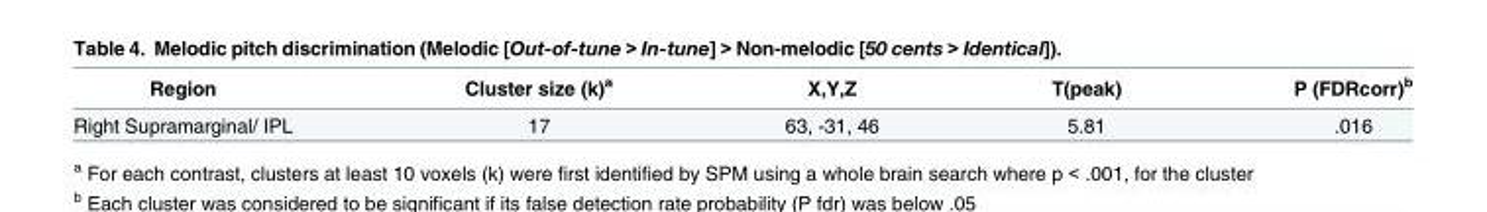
<table><thead><tr><td>Region</td><td>Cluster size (k)<sup>a</sup></td><td>X,Y,Z</td><td>T(peak)</td><td>P (FDRcorr)<sup>b</sup></td></tr></thead><tbody><tr><td>Right Supramarginal/ IPL</td><td>17</td><td>63, -31, 46</td><td>5.81</td><td>.016</td></tr></tbody></table>